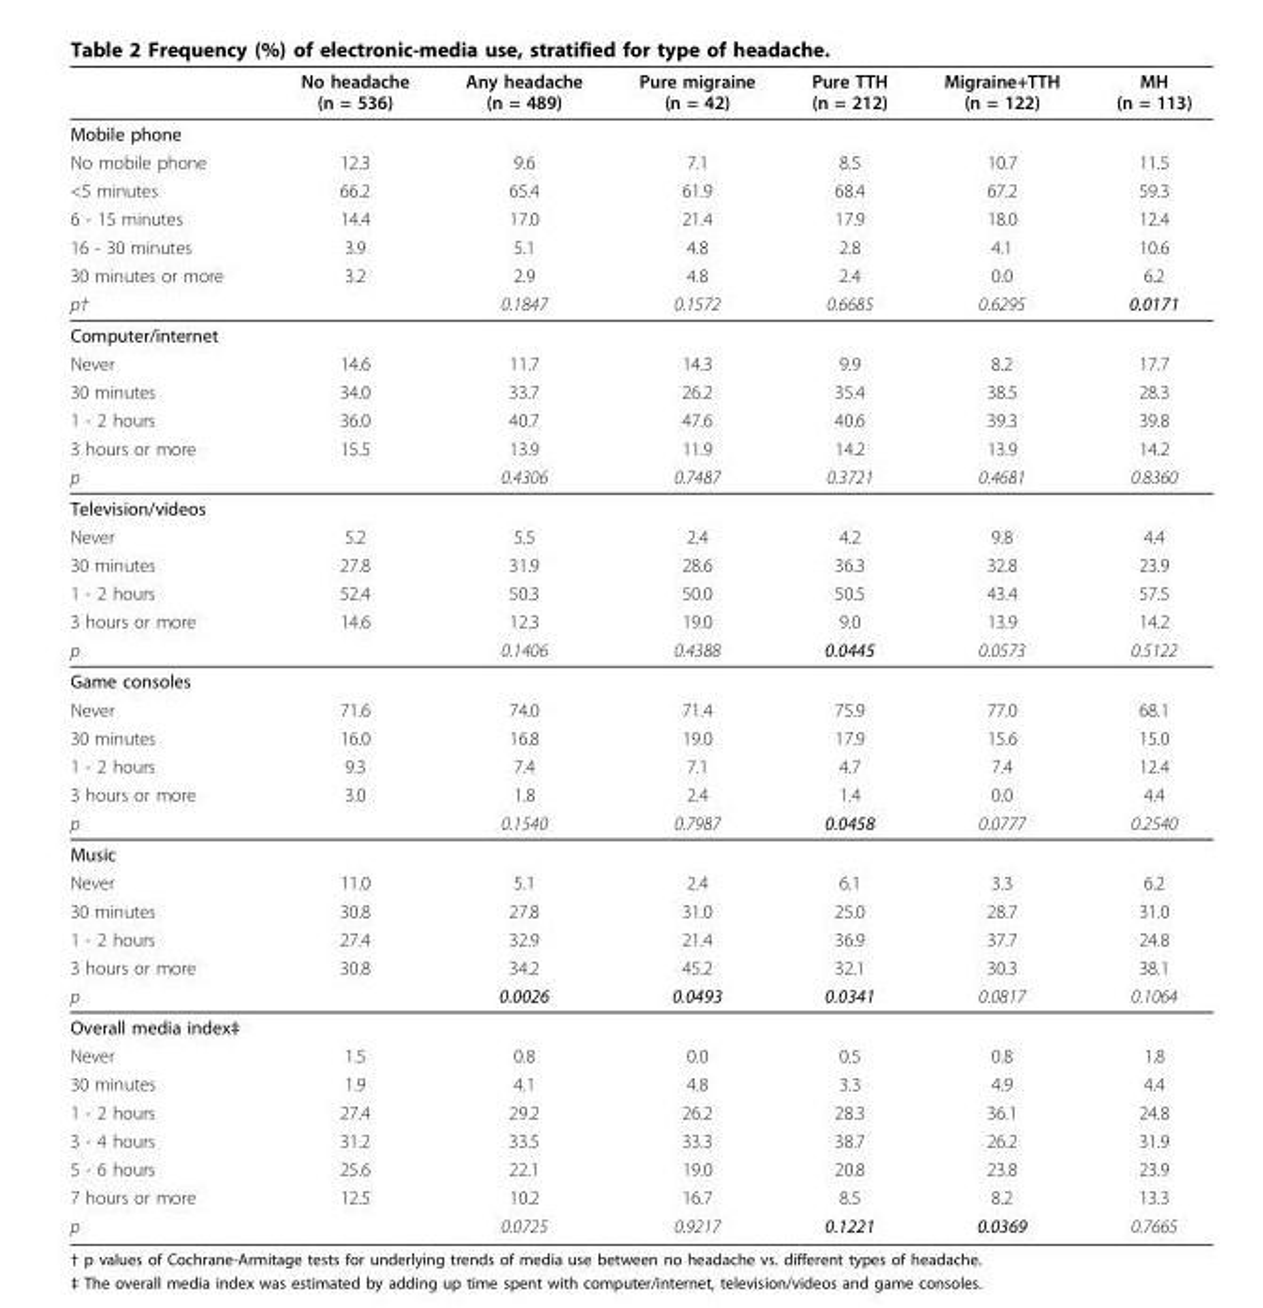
<table><thead><tr><td></td><td>No headache (n = 536)</td><td>Any headache (n = 489)</td><td>Pure migraine (n = 42)</td><td>Pure TTH (n = 212)</td><td>Migraine+TTH (n = 122)</td><td>MH (n = 113)</td></tr></thead><tbody><tr><td colspan="7">Mobile phone</td></tr><tr><td>No mobile phone</td><td>12.3</td><td>9.6</td><td>7.1</td><td>8.5</td><td>10.7</td><td>11.5</td></tr><tr><td>&lt;5 minutes</td><td>66.2</td><td>65.4</td><td>61.9</td><td>68.4</td><td>67.2</td><td>59.3</td></tr><tr><td>6 - 15 minutes</td><td>14.4</td><td>17.0</td><td>21.4</td><td>17.9</td><td>18.0</td><td>12.4</td></tr><tr><td>16 - 30 minutes</td><td>3.9</td><td>5.1</td><td>4.8</td><td>2.8</td><td>4.1</td><td>10.6</td></tr><tr><td>30 minutes or more</td><td>3.2</td><td>2.9</td><td>4.8</td><td>2.4</td><td>0.0</td><td>6.2</td></tr><tr><td>p†</td><td></td><td>0.1847</td><td>0.1572</td><td>0.6685</td><td>0.6295</td><td>0.0171</td></tr><tr><td colspan="7">Computer/internet</td></tr><tr><td>Never</td><td>14.6</td><td>11.7</td><td>14.3</td><td>9.9</td><td>8.2</td><td>17.7</td></tr><tr><td>30 minutes</td><td>34.0</td><td>33.7</td><td>26.2</td><td>35.4</td><td>38.5</td><td>28.3</td></tr><tr><td>1 - 2 hours</td><td>36.0</td><td>40.7</td><td>47.6</td><td>40.6</td><td>39.3</td><td>39.8</td></tr><tr><td>3 hours or more</td><td>15.5</td><td>13.9</td><td>11.9</td><td>14.2</td><td>13.9</td><td>14.2</td></tr><tr><td>p</td><td></td><td>0.4306</td><td>0.7487</td><td>0.3721</td><td>0.4681</td><td>0.8360</td></tr><tr><td colspan="7">Television/videos</td></tr><tr><td>Never</td><td>5.2</td><td>5.5</td><td>2.4</td><td>4.2</td><td>9.8</td><td>4.4</td></tr><tr><td>30 minutes</td><td>27.8</td><td>31.9</td><td>28.6</td><td>36.3</td><td>32.8</td><td>23.9</td></tr><tr><td>1 - 2 hours</td><td>52.4</td><td>50.3</td><td>50.0</td><td>50.5</td><td>43.4</td><td>57.5</td></tr><tr><td>3 hours or more</td><td>14.6</td><td>12.3</td><td>19.0</td><td>9.0</td><td>13.9</td><td>14.2</td></tr><tr><td>p</td><td></td><td>0.1406</td><td>0.4388</td><td>0.0445</td><td>0.0573</td><td>0.5122</td></tr><tr><td colspan="7">Game consoles</td></tr><tr><td>Never</td><td>71.6</td><td>74.0</td><td>71.4</td><td>75.9</td><td>77.0</td><td>68.1</td></tr><tr><td>30 minutes</td><td>16.0</td><td>16.8</td><td>19.0</td><td>17.9</td><td>15.6</td><td>15.0</td></tr><tr><td>1 - 2 hours</td><td>9.3</td><td>7.4</td><td>7.1</td><td>4.7</td><td>7.4</td><td>12.4</td></tr><tr><td>3 hours or more</td><td>3.0</td><td>1.8</td><td>2.4</td><td>1.4</td><td>0.0</td><td>4.4</td></tr><tr><td>p</td><td></td><td>0.1540</td><td>0.7987</td><td>0.0458</td><td>0.0777</td><td>0.2540</td></tr><tr><td colspan="7">Music</td></tr><tr><td>Never</td><td>11.0</td><td>5.1</td><td>2.4</td><td>6.1</td><td>3.3</td><td>6.2</td></tr><tr><td>30 minutes</td><td>30.8</td><td>27.8</td><td>31.0</td><td>25.0</td><td>28.7</td><td>31.0</td></tr><tr><td>1 - 2 hours</td><td>27.4</td><td>32.9</td><td>21.4</td><td>36.9</td><td>37.7</td><td>24.8</td></tr><tr><td>3 hours or more</td><td>30.8</td><td>34.2</td><td>45.2</td><td>32.1</td><td>30.3</td><td>38.1</td></tr><tr><td>p</td><td></td><td>0.0026</td><td>0.0493</td><td>0.0341</td><td>0.0817</td><td>0.1064</td></tr><tr><td colspan="7">Overall media index‡</td></tr><tr><td>Never</td><td>1.5</td><td>0.8</td><td>0.0</td><td>0.5</td><td>0.8</td><td>1.8</td></tr><tr><td>30 minutes</td><td>1.9</td><td>4.1</td><td>4.8</td><td>3.3</td><td>4.9</td><td>4.4</td></tr><tr><td>1 - 2 hours</td><td>27.4</td><td>29.2</td><td>26.2</td><td>28.3</td><td>36.1</td><td>24.8</td></tr><tr><td>3 - 4 hours</td><td>31.2</td><td>33.5</td><td>33.3</td><td>38.7</td><td>26.2</td><td>31.9</td></tr><tr><td>5 - 6 hours</td><td>25.6</td><td>22.1</td><td>19.0</td><td>20.8</td><td>23.8</td><td>23.9</td></tr><tr><td>7 hours or more</td><td>12.5</td><td>10.2</td><td>16.7</td><td>8.5</td><td>8.2</td><td>13.3</td></tr><tr><td>p</td><td></td><td>0.0725</td><td>0.9217</td><td>0.1221</td><td>0.0369</td><td>0.7665</td></tr></tbody></table>